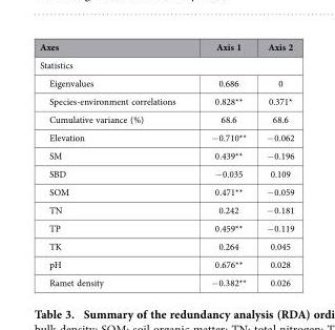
<table><thead><tr><td>Axes</td><td>Axis 1</td><td>Axis 2</td></tr></thead><tbody><tr><td colspan="3">Statistics</td></tr><tr><td>Eigenvalues</td><td>0.686</td><td>0</td></tr><tr><td>Species-environment correlations</td><td>0.828**</td><td>0.371*</td></tr><tr><td>Cumulative variance (%)</td><td>68.6</td><td>68.6</td></tr><tr><td>Elevation</td><td>− 0.710**</td><td>− 0.062</td></tr><tr><td>SM</td><td>0.439**</td><td>− 0.196</td></tr><tr><td>SBD</td><td>− 0.035</td><td>0.109</td></tr><tr><td>SOM</td><td>0.471**</td><td>− 0.059</td></tr><tr><td>TN</td><td>0.242</td><td>− 0.181</td></tr><tr><td>TP</td><td>0.459**</td><td>− 0.119</td></tr><tr><td>TK</td><td>0.264</td><td>0.045</td></tr><tr><td>pH</td><td>0.676**</td><td>0.028</td></tr><tr><td>Ramet density</td><td>− 0.382**</td><td>0.026</td></tr></tbody></table>